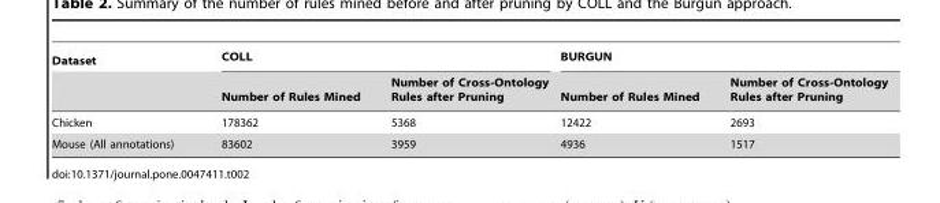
<table><thead><tr><td rowspan="2">Dataset</td><td colspan="2">COLL</td><td colspan="2">BURGUN</td></tr><tr><td>Number of Rules Mined</td><td>Number of Cross-Ontology Rules after Pruning</td><td>Number of Rules Mined</td><td>Number of Cross-Ontology Rules after Pruning</td></tr></thead><tbody><tr><td>Chicken</td><td>178362</td><td>5368</td><td>12422</td><td>2693</td></tr><tr><td>Mouse (All annotations)</td><td>83602</td><td>3959</td><td>4936</td><td>1517</td></tr></tbody></table>